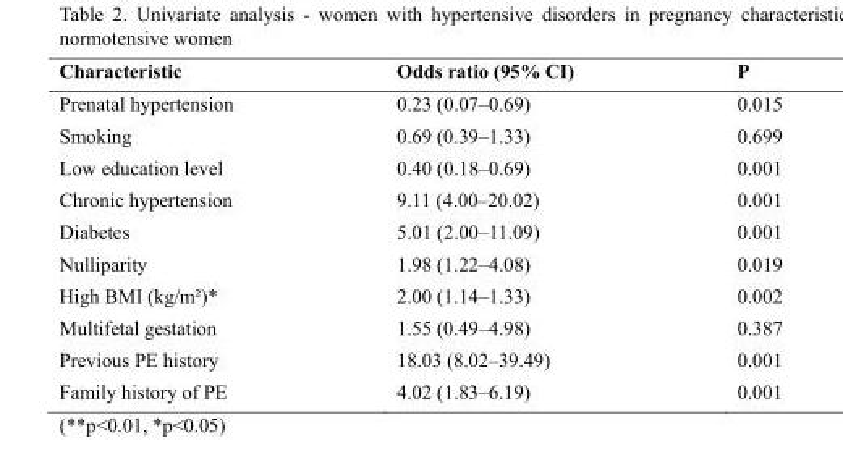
<table><thead><tr><td>Characteristic</td><td>Odds ratio (95% CI)</td><td>P</td></tr></thead><tbody><tr><td>Prenatal hypertension</td><td>0.23 (0.07–0.69)</td><td>0.015</td></tr><tr><td>Smoking</td><td>0.69 (0.39–1.33)</td><td>0.699</td></tr><tr><td>Low education level</td><td>0.40 (0.18–0.69)</td><td>0.001</td></tr><tr><td>Chronic hypertension</td><td>9.11 (4.00–20.02)</td><td>0.001</td></tr><tr><td>Diabetes</td><td>5.01 (2.00–11.09)</td><td>0.001</td></tr><tr><td>Nulliparity</td><td>1.98 (1.22–4.08)</td><td>0.019</td></tr><tr><td>High BMI (kg/m²)*</td><td>2.00 (1.14–1.33)</td><td>0.002</td></tr><tr><td>Multifetal gestation</td><td>1.55 (0.49–4.98)</td><td>0.387</td></tr><tr><td>Previous PE history</td><td>18.03 (8.02–39.49)</td><td>0.001</td></tr><tr><td>Family history of PE</td><td>4.02 (1.83–6.19)</td><td>0.001</td></tr></tbody></table>